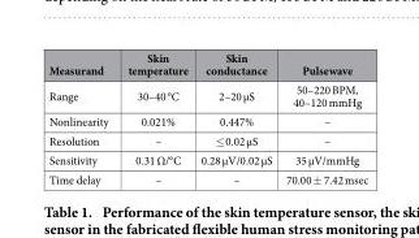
<table><thead><tr><td>Measurand</td><td>Skin temperature</td><td>Skin conductance</td><td>Pulsewave</td></tr></thead><tbody><tr><td>Range</td><td>30–40 °C</td><td>2–20 μS</td><td>50–220 BPM, 40–120 mmHg</td></tr><tr><td>Nonlinearity</td><td>0.021%</td><td>0.447%</td><td>–</td></tr><tr><td>Resolution</td><td>–</td><td>≤ 0.02 μS</td><td>–</td></tr><tr><td>Sensitivity</td><td>0.31 Ω/°C</td><td>0.28 μV/0.02 μS</td><td>35 μV/mmHg</td></tr><tr><td>Time delay</td><td>–</td><td>–</td><td>70.00 ± 7.42 msec</td></tr></tbody></table>